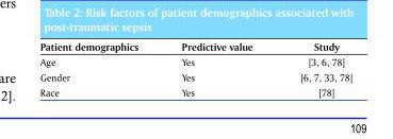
<table><thead><tr><td>Patient demographics</td><td>Predictive value</td><td>Study</td></tr></thead><tbody><tr><td>Age</td><td>Yes</td><td>[3, 6, 78]</td></tr><tr><td>Gender</td><td>Yes</td><td>[6, 7, 33, 78]</td></tr><tr><td>Race</td><td>Yes</td><td>[78]</td></tr></tbody></table>